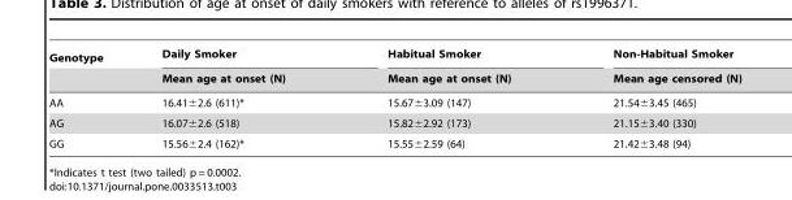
<table><thead><tr><td rowspan="2">Genotype</td><td rowspan="2">Daily Smoker Mean age at onset (N)</td><td rowspan="2">Habitual Smoker Mean age at onset (N)</td><td rowspan="2">Non-Habitual Smoker Mean age censored (N)</td></tr><tr></tr></thead><tbody><tr><td>AA</td><td>16.41±2.6 (611)*</td><td>15.67±3.09 (147)</td><td>21.54±3.45 (465)</td></tr><tr><td>AG</td><td>16.07±2.6 (518)</td><td>15.82±2.92 (173)</td><td>21.15±3.40 (330)</td></tr><tr><td>GG</td><td>15.56±2.4 (162)*</td><td>15.55±2.59 (64)</td><td>21.42±3.48 (94)</td></tr></tbody></table>